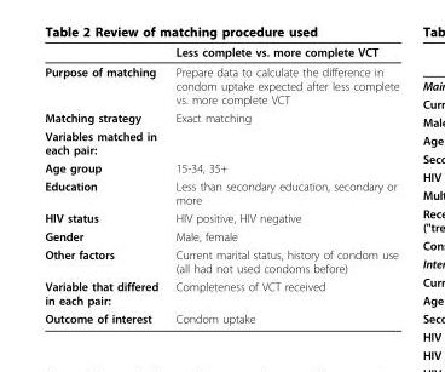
<table><thead><tr><td></td><td>Less complete vs. more complete VCT</td></tr></thead><tbody><tr><td>Purpose of matching</td><td>Prepare data to calculate the difference in condom uptake expected after less complete vs. more complete VCT</td></tr><tr><td>Matching strategy</td><td>Exact matching</td></tr><tr><td colspan="2">Variables matched in each pair:</td></tr><tr><td>Age group</td><td>15-34, 35+</td></tr><tr><td>Education</td><td>Less than secondary education, secondary or more</td></tr><tr><td>HIV status</td><td>HIV positive, HIV negative</td></tr><tr><td>Gender</td><td>Male, female</td></tr><tr><td>Other factors</td><td>Current marital status, history of condom use (all had not used condoms before)</td></tr><tr><td>Variable that differed in each pair:</td><td>Completeness of VCT received</td></tr><tr><td>Outcome of interest</td><td>Condom uptake</td></tr></tbody></table>